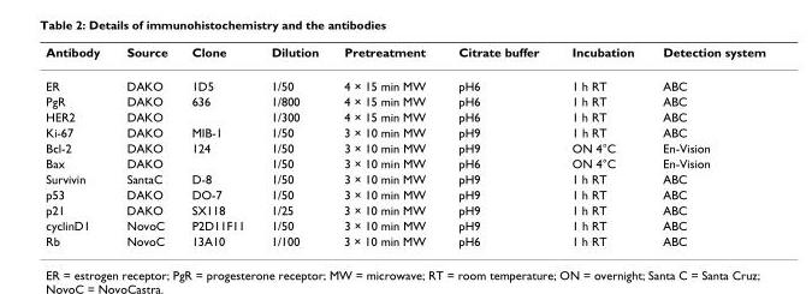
<table><thead><tr><td>Antibody</td><td>Source</td><td>Clone</td><td>Dilution</td><td>Pretreatment</td><td>Citrate buffer</td><td>Incubation</td><td>Detection system</td></tr></thead><tbody><tr><td>ER</td><td>DAKO</td><td>1D5</td><td>1/50</td><td>4 × 15 min MW</td><td>pH6</td><td>1 h RT</td><td>ABC</td></tr><tr><td>PgR</td><td>DAKO</td><td>636</td><td>1/800</td><td>4 × 15 min MW</td><td>pH6</td><td>1 h RT</td><td>ABC</td></tr><tr><td>HER2</td><td>DAKO</td><td></td><td>1/300</td><td>4 × 15 min MW</td><td>pH6</td><td>1 h RT</td><td>ABC</td></tr><tr><td>Ki-67</td><td>DAKO</td><td>MIB-1</td><td>1/50</td><td>3 × 10 min MW</td><td>pH9</td><td>1 h RT</td><td>ABC</td></tr><tr><td>Bcl-2</td><td>DAKO</td><td>124</td><td>1/50</td><td>3 × 10 min MW</td><td>pH9</td><td>ON 4°C</td><td>En-Vision</td></tr><tr><td>Bax</td><td>DAKO</td><td></td><td>1/50</td><td>3 × 10 min MW</td><td>pH6</td><td>ON 4°C</td><td>En-Vision</td></tr><tr><td>Survivin</td><td>SantaC</td><td>D-8</td><td>1/50</td><td>3 × 10 min MW</td><td>pH9</td><td>1 h RT</td><td>ABC</td></tr><tr><td>p53</td><td>DAKO</td><td>DO-7</td><td>1/50</td><td>3 × 10 min MW</td><td>pH9</td><td>1 h RT</td><td>ABC</td></tr><tr><td>p21</td><td>DAKO</td><td>SX118</td><td>1/25</td><td>3 × 10 min MW</td><td>pH9</td><td>1 h RT</td><td>ABC</td></tr><tr><td>cyclinD1</td><td>NovoC</td><td>P2D11F11</td><td>1/50</td><td>3 × 10 min MW</td><td>pH9</td><td>1 h RT</td><td>ABC</td></tr><tr><td>Rb</td><td>NovoC</td><td>13A10</td><td>1/100</td><td>3 × 10 min MW</td><td>pH6</td><td>1 h RT</td><td>ABC</td></tr></tbody></table>